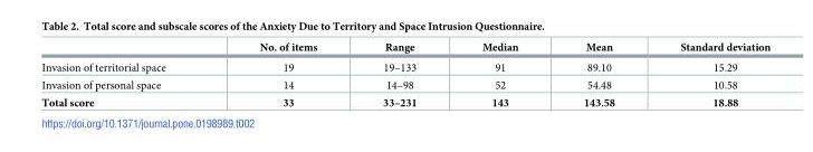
<table><thead><tr><td></td><td>No. of items</td><td>Range</td><td>Median</td><td>Mean</td><td>Standard deviation</td></tr></thead><tbody><tr><td>Invasion of territorial space</td><td>19</td><td>19–133</td><td>91</td><td>89.10</td><td>15.29</td></tr><tr><td>Invasion of personal space</td><td>14</td><td>14–98</td><td>52</td><td>54.48</td><td>10.58</td></tr><tr><td>Total score</td><td>33</td><td>33–231</td><td>143</td><td>143.58</td><td>18.88</td></tr></tbody></table>